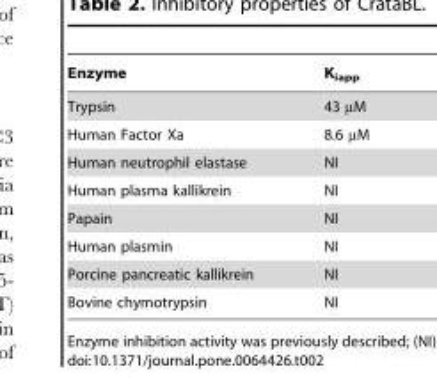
<table><thead><tr><td>Enzyme</td><td>K<sub>iapp</sub></td></tr></thead><tbody><tr><td>Trypsin</td><td>43 µM</td></tr><tr><td>Human Factor Xa</td><td>8.6 µM</td></tr><tr><td>Human neutrophil elastase</td><td>NI</td></tr><tr><td>Human plasma kallikrein</td><td>NI</td></tr><tr><td>Papain</td><td>NI</td></tr><tr><td>Human plasmin</td><td>NI</td></tr><tr><td>Porcine pancreatic kallikrein</td><td>NI</td></tr><tr><td>Bovine chymotrypsin</td><td>NI</td></tr></tbody></table>